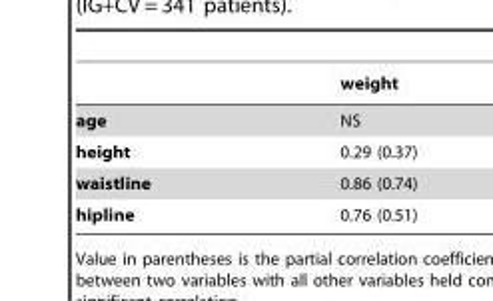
<table><thead><tr><td></td><td>weight</td></tr></thead><tbody><tr><td>age</td><td>NS</td></tr><tr><td>height</td><td>0.29 (0.37)</td></tr><tr><td>waistline</td><td>0.86 (0.74)</td></tr><tr><td>hipline</td><td>0.76 (0.51)</td></tr></tbody></table>